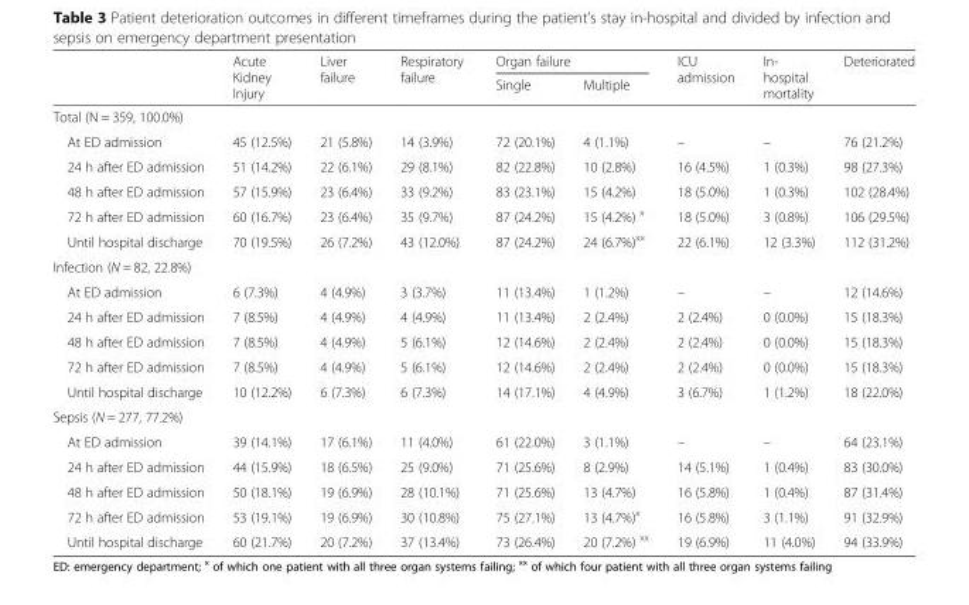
<table><thead><tr><td rowspan="2"></td><td rowspan="2">Acute Kidney Injury</td><td rowspan="2">Liver failure</td><td rowspan="2">Respiratory failure</td><td colspan="2">Organ failure</td><td rowspan="2">ICU admission</td><td rowspan="2">In- hospital mortality</td><td rowspan="2">Deteriorated</td></tr><tr><td>Single</td><td>Multiple</td></tr></thead><tbody><tr><td colspan="9">Total (N = 359, 100.0%)</td></tr><tr><td>At ED admission</td><td>45 (12.5%)</td><td>21 (5.8%)</td><td>14 (3.9%)</td><td>72 (20.1%)</td><td>4 (1.1%)</td><td>–</td><td>–</td><td>76 (21.2%)</td></tr><tr><td>24 h after ED admission</td><td>51 (14.2%)</td><td>22 (6.1%)</td><td>29 (8.1%)</td><td>82 (22.8%)</td><td>10 (2.8%)</td><td>16 (4.5%)</td><td>1 (0.3%)</td><td>98 (27.3%)</td></tr><tr><td>48 h after ED admission</td><td>57 (15.9%)</td><td>23 (6.4%)</td><td>33 (9.2%)</td><td>83 (23.1%)</td><td>15 (4.2%)</td><td>18 (5.0%)</td><td>1 (0.3%)</td><td>102 (28.4%)</td></tr><tr><td>72 h after ED admission</td><td>60 (16.7%)</td><td>23 (6.4%)</td><td>35 (9.7%)</td><td>87 (24.2%)</td><td>15 (4.2%) <sup>x</sup></td><td>18 (5.0%)</td><td>3 (0.8%)</td><td>106 (29.5%)</td></tr><tr><td>Until hospital discharge</td><td>70 (19.5%)</td><td>26 (7.2%)</td><td>43 (12.0%)</td><td>87 (24.2%)</td><td>24 (6.7%)<sup>xx</sup></td><td>22 (6.1%)</td><td>12 (3.3%)</td><td>112 (31.2%)</td></tr><tr><td colspan="9">Infection (N = 82, 22.8%)</td></tr><tr><td>At ED admission</td><td>6 (7.3%)</td><td>4 (4.9%)</td><td>3 (3.7%)</td><td>11 (13.4%)</td><td>1 (1.2%)</td><td>–</td><td>–</td><td>12 (14.6%)</td></tr><tr><td>24 h after ED admission</td><td>7 (8.5%)</td><td>4 (4.9%)</td><td>4 (4.9%)</td><td>11 (13.4%)</td><td>2 (2.4%)</td><td>2 (2.4%)</td><td>0 (0.0%)</td><td>15 (18.3%)</td></tr><tr><td>48 h after ED admission</td><td>7 (8.5%)</td><td>4 (4.9%)</td><td>5 (6.1%)</td><td>12 (14.6%)</td><td>2 (2.4%)</td><td>2 (2.4%)</td><td>0 (0.0%)</td><td>15 (18.3%)</td></tr><tr><td>72 h after ED admission</td><td>7 (8.5%)</td><td>4 (4.9%)</td><td>5 (6.1%)</td><td>12 (14.6%)</td><td>2 (2.4%)</td><td>2 (2.4%)</td><td>0 (0.0%)</td><td>15 (18.3%)</td></tr><tr><td>Until hospital discharge</td><td>10 (12.2%)</td><td>6 (7.3%)</td><td>6 (7.3%)</td><td>14 (17.1%)</td><td>4 (4.9%)</td><td>3 (6.7%)</td><td>1 (1.2%)</td><td>18 (22.0%)</td></tr><tr><td colspan="9">Sepsis (N = 277, 77.2%)</td></tr><tr><td>At ED admission</td><td>39 (14.1%)</td><td>17 (6.1%)</td><td>11 (4.0%)</td><td>61 (22.0%)</td><td>3 (1.1%)</td><td>–</td><td>–</td><td>64 (23.1%)</td></tr><tr><td>24 h after ED admission</td><td>44 (15.9%)</td><td>18 (6.5%)</td><td>25 (9.0%)</td><td>71 (25.6%)</td><td>8 (2.9%)</td><td>14 (5.1%)</td><td>1 (0.4%)</td><td>83 (30.0%)</td></tr><tr><td>48 h after ED admission</td><td>50 (18.1%)</td><td>19 (6.9%)</td><td>28 (10.1%)</td><td>71 (25.6%)</td><td>13 (4.7%)</td><td>16 (5.8%)</td><td>1 (0.4%)</td><td>87 (31.4%)</td></tr><tr><td>72 h after ED admission</td><td>53 (19.1%)</td><td>19 (6.9%)</td><td>30 (10.8%)</td><td>75 (27.1%)</td><td>13 (4.7%)<sup>x</sup></td><td>16 (5.8%)</td><td>3 (1.1%)</td><td>91 (32.9%)</td></tr><tr><td>Until hospital discharge</td><td>60 (21.7%)</td><td>20 (7.2%)</td><td>37 (13.4%)</td><td>73 (26.4%)</td><td>20 (7.2%) <sup>xx</sup></td><td>19 (6.9%)</td><td>11 (4.0%)</td><td>94 (33.9%)</td></tr></tbody></table>